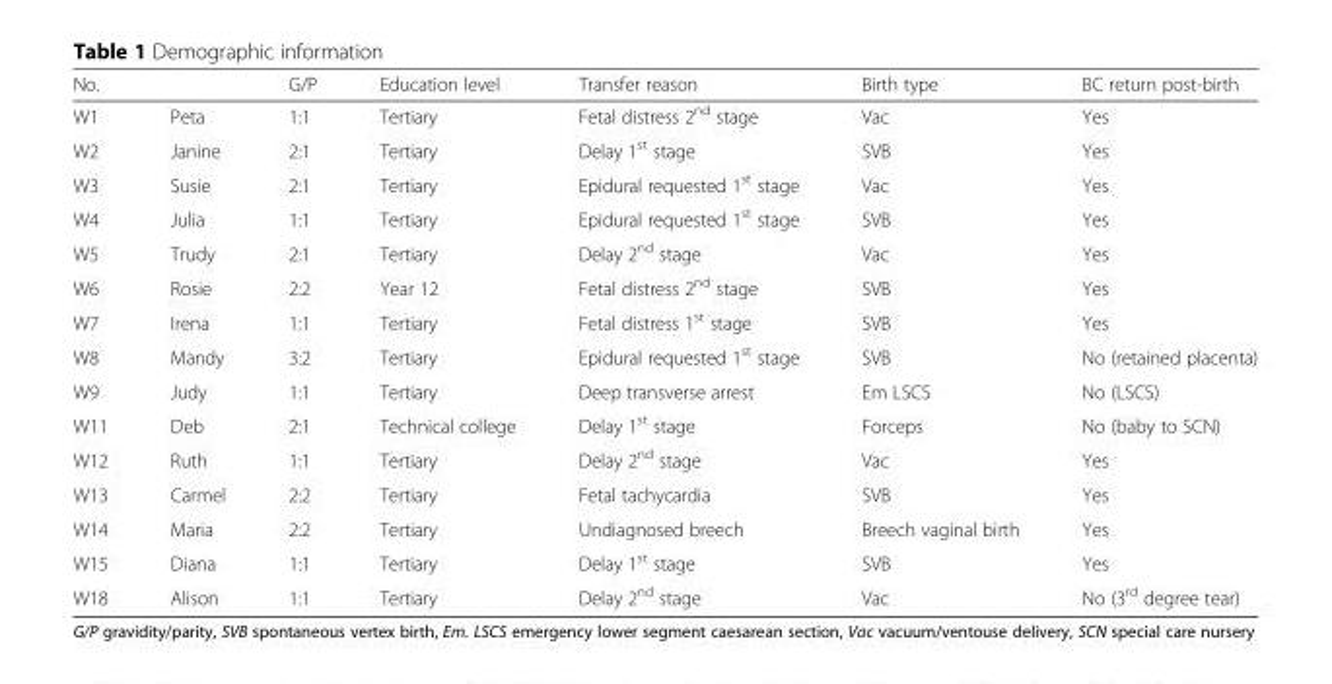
<table><thead><tr><td>No.</td><td></td><td>G/P</td><td>Education level</td><td>Transfer reason</td><td>Birth type</td><td>BC return post-birth</td></tr></thead><tbody><tr><td>W1</td><td>Peta</td><td>1:1</td><td>Tertiary</td><td>Fetal distress 2<sup>nd</sup> stage</td><td>Vac</td><td>Yes</td></tr><tr><td>W2</td><td>Janine</td><td>2:1</td><td>Tertiary</td><td>Delay 1<sup>st</sup> stage</td><td>SVB</td><td>Yes</td></tr><tr><td>W3</td><td>Susie</td><td>2:1</td><td>Tertiary</td><td>Epidural requested 1<sup>st</sup> stage</td><td>Vac</td><td>Yes</td></tr><tr><td>W4</td><td>Julia</td><td>1:1</td><td>Tertiary</td><td>Epidural requested 1<sup>st</sup> stage</td><td>SVB</td><td>Yes</td></tr><tr><td>W5</td><td>Trudy</td><td>2:1</td><td>Tertiary</td><td>Delay 2<sup>nd</sup> stage</td><td>Vac</td><td>Yes</td></tr><tr><td>W6</td><td>Rosie</td><td>2:2</td><td>Year 12</td><td>Fetal distress 2<sup>nd</sup> stage</td><td>SVB</td><td>Yes</td></tr><tr><td>W7</td><td>Irena</td><td>1:1</td><td>Tertiary</td><td>Fetal distress 1<sup>st</sup> stage</td><td>SVB</td><td>Yes</td></tr><tr><td>W8</td><td>Mandy</td><td>3:2</td><td>Tertiary</td><td>Epidural requested 1<sup>st</sup> stage</td><td>SVB</td><td>No (retained placenta)</td></tr><tr><td>W9</td><td>Judy</td><td>1:1</td><td>Tertiary</td><td>Deep transverse arrest</td><td>Em LSCS</td><td>No (LSCS)</td></tr><tr><td>W11</td><td>Deb</td><td>2:1</td><td>Technical college</td><td>Delay 1<sup>st</sup> stage</td><td>Forceps</td><td>No (baby to SCN)</td></tr><tr><td>W12</td><td>Ruth</td><td>1:1</td><td>Tertiary</td><td>Delay 2<sup>nd</sup> stage</td><td>Vac</td><td>Yes</td></tr><tr><td>W13</td><td>Carmel</td><td>2:2</td><td>Tertiary</td><td>Fetal tachycardia</td><td>SVB</td><td>Yes</td></tr><tr><td>W14</td><td>Maria</td><td>2:2</td><td>Tertiary</td><td>Undiagnosed breech</td><td>Breech vaginal birth</td><td>Yes</td></tr><tr><td>W15</td><td>Diana</td><td>1:1</td><td>Tertiary</td><td>Delay 1<sup>st</sup> stage</td><td>SVB</td><td>Yes</td></tr><tr><td>W18</td><td>Alison</td><td>1:1</td><td>Tertiary</td><td>Delay 2<sup>nd</sup> stage</td><td>Vac</td><td>No (3<sup>rd</sup> degree tear)</td></tr></tbody></table>